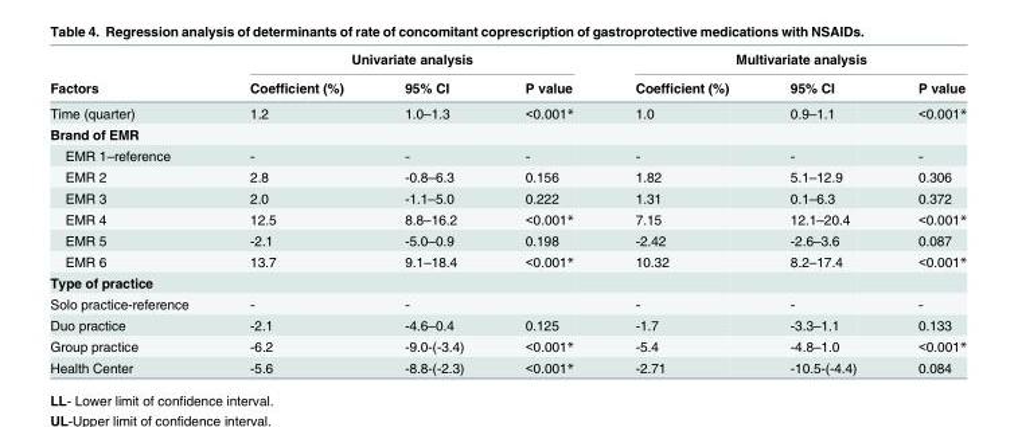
<table><thead><tr><td rowspan="2">Factors</td><td colspan="3">Univariate analysis</td><td colspan="3">Multivariate analysis</td></tr><tr><td>Coefficient (%)</td><td>95% CI</td><td>P value</td><td>Coefficient (%)</td><td>95% CI</td><td>P value</td></tr></thead><tbody><tr><td>Time (quarter)</td><td>1.2</td><td>1.0–1.3</td><td>&lt;0.001*</td><td>1.0</td><td>0.9–1.1</td><td>&lt;0.001*</td></tr><tr><td colspan="7">Brand of EMR</td></tr><tr><td>EMR 1–reference</td><td>-</td><td>-</td><td>-</td><td>-</td><td>-</td><td>-</td></tr><tr><td>EMR 2</td><td>2.8</td><td>-0.8–6.3</td><td>0.156</td><td>1.82</td><td>5.1–12.9</td><td>0.306</td></tr><tr><td>EMR 3</td><td>2.0</td><td>-1.1–5.0</td><td>0.222</td><td>1.31</td><td>0.1–6.3</td><td>0.372</td></tr><tr><td>EMR 4</td><td>12.5</td><td>8.8–16.2</td><td>&lt;0.001*</td><td>7.15</td><td>12.1–20.4</td><td>&lt;0.001*</td></tr><tr><td>EMR 5</td><td>-2.1</td><td>-5.0–0.9</td><td>0.198</td><td>-2.42</td><td>-2.6–3.6</td><td>0.087</td></tr><tr><td>EMR 6</td><td>13.7</td><td>9.1–18.4</td><td>&lt;0.001*</td><td>10.32</td><td>8.2–17.4</td><td>&lt;0.001*</td></tr><tr><td colspan="7">Type of practice</td></tr><tr><td>Solo practice-reference</td><td>-</td><td>-</td><td></td><td>-</td><td>-</td><td>-</td></tr><tr><td>Duo practice</td><td>-2.1</td><td>-4.6–0.4</td><td>0.125</td><td>-1.7</td><td>-3.3–1.1</td><td>0.133</td></tr><tr><td>Group practice</td><td>-6.2</td><td>-9.0-(-3.4)</td><td>&lt;0.001*</td><td>-5.4</td><td>-4.8–1.0</td><td>&lt;0.001*</td></tr><tr><td>Health Center</td><td>-5.6</td><td>-8.8-(-2.3)</td><td>&lt;0.001*</td><td>-2.71</td><td>-10.5-(-4.4)</td><td>0.084</td></tr></tbody></table>